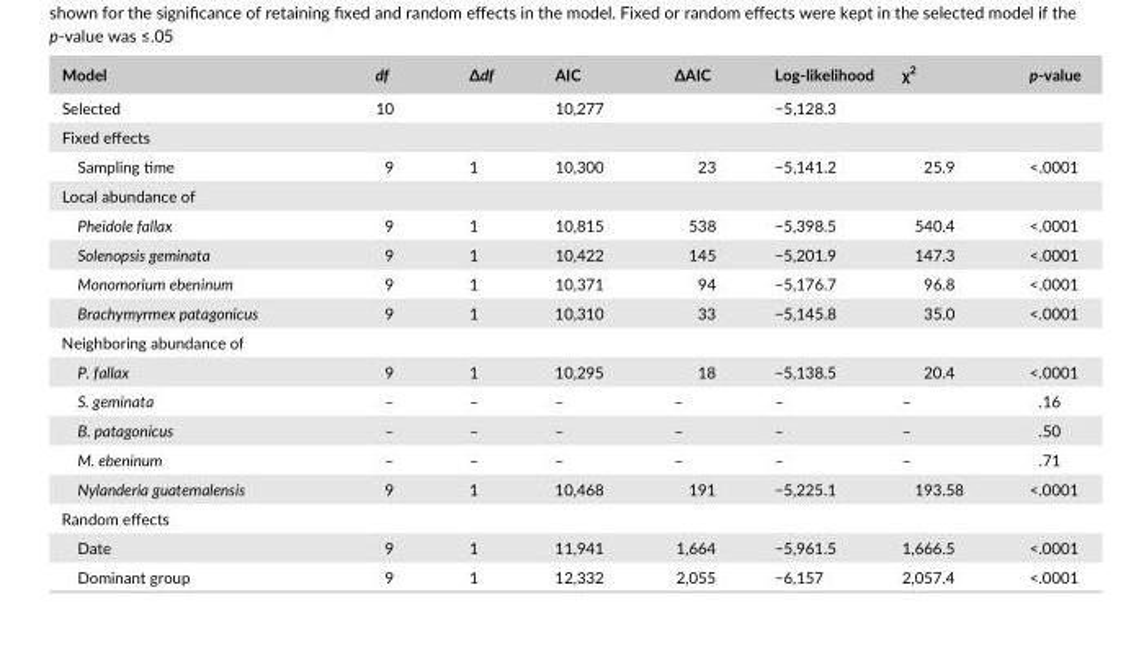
<table><thead><tr><td>Model</td><td>df</td><td>Δdf</td><td>AIC</td><td>ΔAIC</td><td>Log- likelihood</td><td>χ<sup>2</sup></td><td>p- value</td></tr></thead><tbody><tr><td>Selected</td><td>10</td><td></td><td>10,277</td><td></td><td>−5,128.3</td><td></td><td></td></tr><tr><td colspan="8">Fixed effects</td></tr><tr><td>Sampling time</td><td>9</td><td>1</td><td>10,300</td><td>23</td><td>−5,141.2</td><td>25.9</td><td>&lt;.0001</td></tr><tr><td colspan="8">Local abundance of</td></tr><tr><td>Pheidole fallax</td><td>9</td><td>1</td><td>10,815</td><td>538</td><td>−5,398.5</td><td>540.4</td><td>&lt;.0001</td></tr><tr><td>Solenopsis geminata</td><td>9</td><td>1</td><td>10,422</td><td>145</td><td>−5,201.9</td><td>147.3</td><td>&lt;.0001</td></tr><tr><td>Monomorium ebeninum</td><td>9</td><td>1</td><td>10,371</td><td>94</td><td>−5,176.7</td><td>96.8</td><td>&lt;.0001</td></tr><tr><td>Brachymyrmex patagonicus</td><td>9</td><td>1</td><td>10,310</td><td>33</td><td>−5,145.8</td><td>35.0</td><td>&lt;.0001</td></tr><tr><td colspan="8">Neighboring abundance of</td></tr><tr><td>P. fallax</td><td>9</td><td>1</td><td>10,295</td><td>18</td><td>−5,138.5</td><td>20.4</td><td>&lt;.0001</td></tr><tr><td>S. geminata</td><td>–</td><td>–</td><td>–</td><td>–</td><td>–</td><td>–</td><td>.16</td></tr><tr><td>B. patagonicus</td><td>–</td><td>–</td><td>–</td><td>–</td><td>–</td><td>–</td><td>.50</td></tr><tr><td>M. ebeninum</td><td>–</td><td>–</td><td>–</td><td>–</td><td>–</td><td>–</td><td>.71</td></tr><tr><td>Nylanderia guatemalensis</td><td>9</td><td>1</td><td>10,468</td><td>191</td><td>−5,225.1</td><td>193.58</td><td>&lt;.0001</td></tr><tr><td colspan="8">Random effects</td></tr><tr><td>Date</td><td>9</td><td>1</td><td>11,941</td><td>1,664</td><td>−5,961.5</td><td>1,666.5</td><td>&lt;.0001</td></tr><tr><td>Dominant group</td><td>9</td><td>1</td><td>12,332</td><td>2,055</td><td>−6,157</td><td>2,057.4</td><td>&lt;.0001</td></tr></tbody></table>